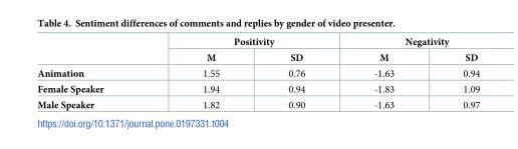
<table><thead><tr><td rowspan="2"></td><td colspan="2">Positivity</td><td colspan="2">Negativity</td></tr><tr><td>M</td><td>SD</td><td>M</td><td>SD</td></tr></thead><tbody><tr><td>Animation</td><td>1.55</td><td>0.76</td><td>-1.63</td><td>0.94</td></tr><tr><td>Female Speaker</td><td>1.94</td><td>0.94</td><td>-1.83</td><td>1.09</td></tr><tr><td>Male Speaker</td><td>1.82</td><td>0.90</td><td>-1.63</td><td>0.97</td></tr></tbody></table>